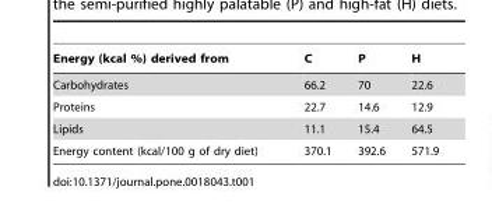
<table><thead><tr><td>Energy (kcal %) derived from</td><td>C</td><td>P</td><td>H</td></tr></thead><tbody><tr><td>Carbohydrates</td><td>66.2</td><td>70</td><td>22.6</td></tr><tr><td>Proteins</td><td>22.7</td><td>14.6</td><td>12.9</td></tr><tr><td>Lipids</td><td>11.1</td><td>15.4</td><td>64.5</td></tr><tr><td>Energy content (kcal/100 g of dry diet)</td><td>370.1</td><td>392.6</td><td>571.9</td></tr></tbody></table>